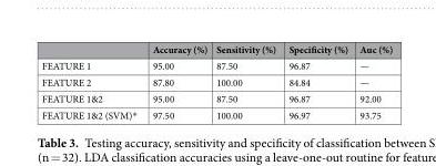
<table><thead><tr><td></td><td>Accuracy (%)</td><td>Sensitivity (%)</td><td>Specificity (%)</td><td>Auc (%)</td></tr></thead><tbody><tr><td>FEATURE 1</td><td>95.00</td><td>87.50</td><td>96.87</td><td>—</td></tr><tr><td>FEATURE 2</td><td>87.80</td><td>100.00</td><td>84.84</td><td>—</td></tr><tr><td>FEATURE 1&amp;2</td><td>95.00</td><td>87.50</td><td>96.87</td><td>92.00</td></tr><tr><td>FEATURE 1&amp;2 (SVM)*</td><td>97.50</td><td>100.00</td><td>96.97</td><td>93.75</td></tr></tbody></table>